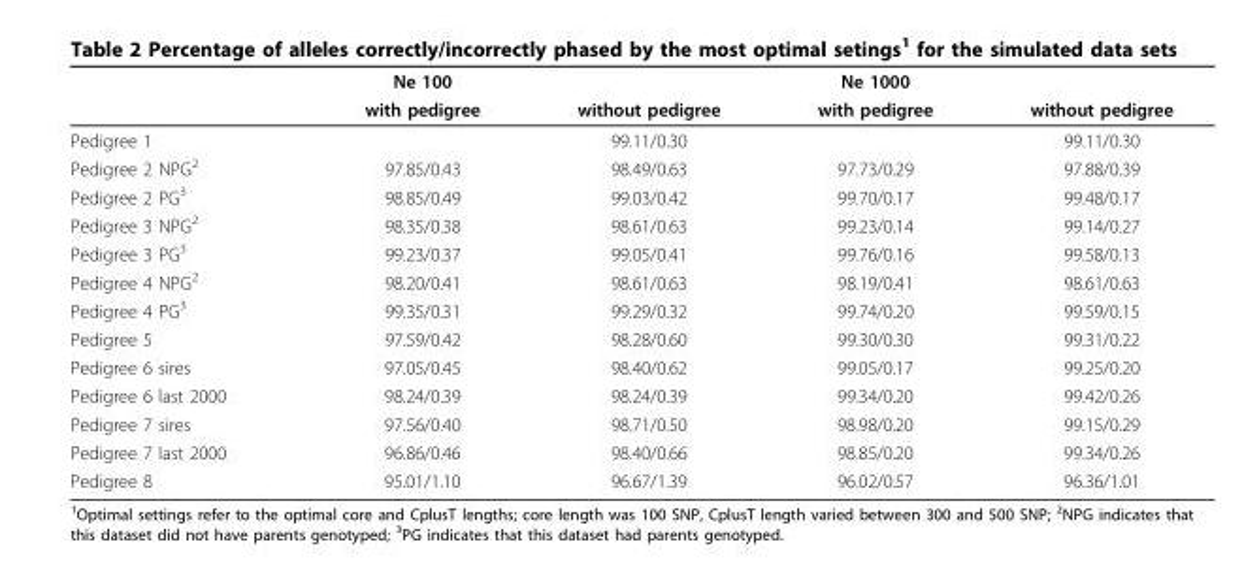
<table><thead><tr><td rowspan="2"></td><td rowspan="2">Ne 100 with pedigree</td><td rowspan="2">without pedigree</td><td rowspan="2">Ne 1000 with pedigree</td><td rowspan="2">without pedigree</td></tr><tr></tr></thead><tbody><tr><td>Pedigree 1</td><td></td><td>99.11/0.30</td><td></td><td>99.11/0.30</td></tr><tr><td>Pedigree 2 NPG<sup>2</sup></td><td>97.85/0.43</td><td>98.49/0.63</td><td>97.73/0.29</td><td>97.88/0.39</td></tr><tr><td>Pedigree 2 PG<sup>3</sup></td><td>98.85/0.49</td><td>99.03/0.42</td><td>99.70/0.17</td><td>99.48/0.17</td></tr><tr><td>Pedigree 3 NPG<sup>2</sup></td><td>98.35/0.38</td><td>98.61/0.63</td><td>99.23/0.14</td><td>99.14/0.27</td></tr><tr><td>Pedigree 3 PG<sup>3</sup></td><td>99.23/0.37</td><td>99.05/0.41</td><td>99.76/0.16</td><td>99.58/0.13</td></tr><tr><td>Pedigree 4 NPG<sup>2</sup></td><td>98.20/0.41</td><td>98.61/0.63</td><td>98.19/0.41</td><td>98.61/0.63</td></tr><tr><td>Pedigree 4 PG<sup>3</sup></td><td>99.35/0.31</td><td>99.29/0.32</td><td>99.74/0.20</td><td>99.59/0.15</td></tr><tr><td>Pedigree 5</td><td>97.59/0.42</td><td>98.28/0.60</td><td>99.30/0.30</td><td>99.31/0.22</td></tr><tr><td>Pedigree 6 sires</td><td>97.05/0.45</td><td>98.40/0.62</td><td>99.05/0.17</td><td>99.25/0.20</td></tr><tr><td>Pedigree 6 last 2000</td><td>98.24/0.39</td><td>98.24/0.39</td><td>99.34/0.20</td><td>99.42/0.26</td></tr><tr><td>Pedigree 7 sires</td><td>97.56/0.40</td><td>98.71/0.50</td><td>98.98/0.20</td><td>99.15/0.29</td></tr><tr><td>Pedigree 7 last 2000</td><td>96.86/0.46</td><td>98.40/0.66</td><td>98.85/0.20</td><td>99.34/0.26</td></tr><tr><td>Pedigree 8</td><td>95.01/1.10</td><td>96.67/1.39</td><td>96.02/0.57</td><td>96.36/1.01</td></tr></tbody></table>